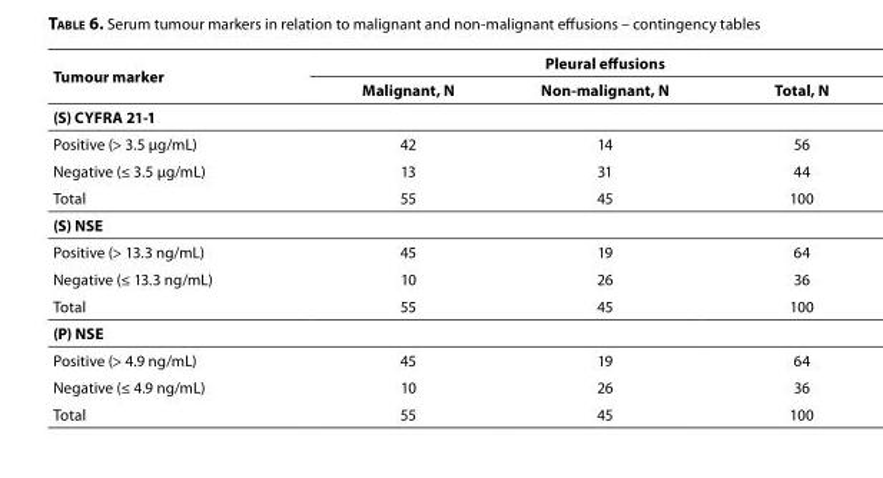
<table><thead><tr><td rowspan="2">Tumour marker</td><td colspan="3">Pleural effusions</td></tr><tr><td>Malignant, N</td><td>Non-malignant, N</td><td>Total, N</td></tr></thead><tbody><tr><td colspan="4">(S) CYFRA 21-1</td></tr><tr><td>Positive (&gt; 3.5 µg/mL)</td><td>42</td><td>14</td><td>56</td></tr><tr><td>Negative (≤ 3.5 µg/mL)</td><td>13</td><td>31</td><td>44</td></tr><tr><td>Total</td><td>55</td><td>45</td><td>100</td></tr><tr><td colspan="4">(S) NSE</td></tr><tr><td>Positive (&gt; 13.3 ng/mL)</td><td>45</td><td>19</td><td>64</td></tr><tr><td>Negative (≤ 13.3 ng/mL)</td><td>10</td><td>26</td><td>36</td></tr><tr><td>Total</td><td>55</td><td>45</td><td>100</td></tr><tr><td colspan="4">(P) NSE</td></tr><tr><td>Positive (&gt; 4.9 ng/mL)</td><td>45</td><td>19</td><td>64</td></tr><tr><td>Negative (≤ 4.9 ng/mL)</td><td>10</td><td>26</td><td>36</td></tr><tr><td>Total</td><td>55</td><td>45</td><td>100</td></tr></tbody></table>